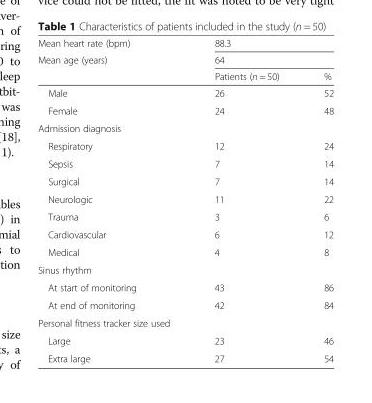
<table><thead><tr><td rowspan="3">Mean heart rate (bpm) Mean age (years)</td><td rowspan="2" colspan="2">88.3 64</td></tr><tr></tr><tr><td>Patients (n = 50)</td><td>%</td></tr></thead><tbody><tr><td>Male</td><td>26</td><td>52</td></tr><tr><td>Female</td><td>24</td><td>48</td></tr><tr><td colspan="3">Admission diagnosis</td></tr><tr><td>Respiratory</td><td>12</td><td>24</td></tr><tr><td>Sepsis</td><td>7</td><td>14</td></tr><tr><td>Surgical</td><td>7</td><td>14</td></tr><tr><td>Neurologic</td><td>11</td><td>22</td></tr><tr><td>Trauma</td><td>3</td><td>6</td></tr><tr><td>Cardiovascular</td><td>6</td><td>12</td></tr><tr><td>Medical</td><td>4</td><td>8</td></tr><tr><td colspan="3">Sinus rhythm</td></tr><tr><td>At start of monitoring</td><td>43</td><td>86</td></tr><tr><td>At end of monitoring</td><td>42</td><td>84</td></tr><tr><td colspan="3">Personal fitness tracker size used</td></tr><tr><td>Large</td><td>23</td><td>46</td></tr><tr><td>Extra large</td><td>27</td><td>54</td></tr></tbody></table>